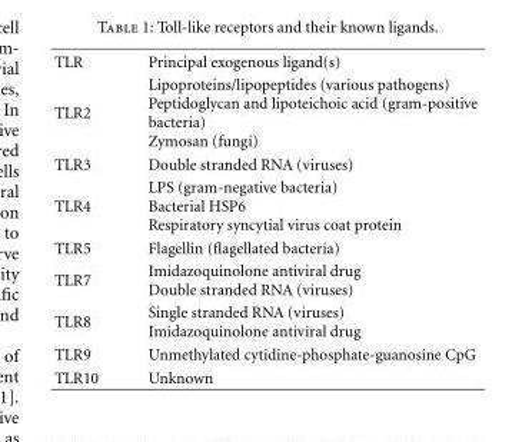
<table><tbody><tr><td>TLR</td><td>Principal exogenous ligand(s)</td></tr><tr><td>TLR2</td><td>Lipoproteins/lipopeptides (various pathogens) Peptidoglycan and lipoteichoic acid (gram-positive bacteria) Zymosan (fungi)</td></tr><tr><td>TLR3</td><td>Double stranded RNA (viruses)</td></tr><tr><td>TLR4</td><td>LPS (gram-negative bacteria) Bacterial HSP6 Respiratory syncytial virus coat protein</td></tr><tr><td>TLR5</td><td>Flagellin (flagellated bacteria)</td></tr><tr><td>TLR7</td><td>Imidazoquinolone antiviral drug Double stranded RNA (viruses)</td></tr><tr><td>TLR8</td><td>Single stranded RNA (viruses) Imidazoquinolone antiviral drug</td></tr><tr><td>TLR9</td><td>Unmethylated cytidine-phosphate-guanosine CpG</td></tr><tr><td>TLR10</td><td>Unknown</td></tr></tbody></table>